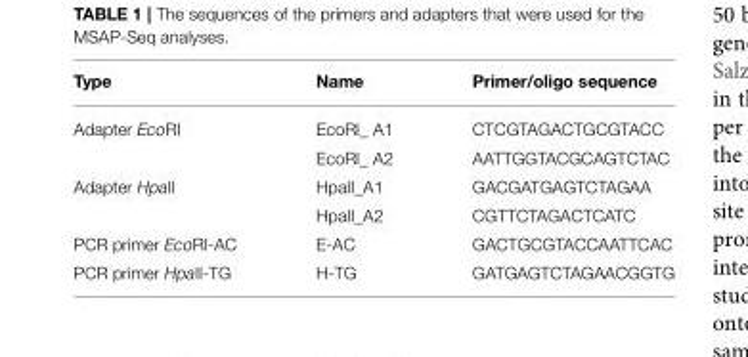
<table><thead><tr><td>Type</td><td>Name</td><td>Primer/oligo sequence</td></tr></thead><tbody><tr><td rowspan="2">Adapter EcoRI</td><td>EcoRI_ A1</td><td>CTCGTAGACTGCGTACC</td></tr><tr><td>EcoRI_ A2</td><td>AATTGGTACGCAGTCTAC</td></tr><tr><td rowspan="2">Adapter HpaII</td><td>HpaII_A1</td><td>GACGATGAGTCTAGAA</td></tr><tr><td>HpaII_A2</td><td>CGTTCTAGACTCATC</td></tr><tr><td>PCR primer EcoRI-AC</td><td>E-AC</td><td>GACTGCGTACCAATTCAC</td></tr><tr><td>PCR primer HpaII-TG</td><td>H-TG</td><td>GATGAGTCTAGAACGGTG</td></tr></tbody></table>